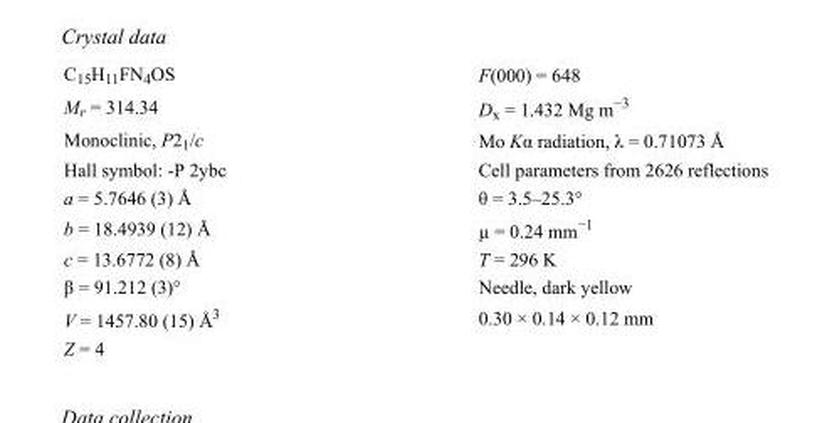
<table><tbody><tr><td>C<sub>15</sub>H<sub>11</sub>FN<sub>4</sub>OS</td><td>F(000) = 648</td></tr><tr><td>M<sub>r</sub> = 314.34</td><td>D<sub>x</sub> = 1.432 Mg m<sup>−3</sup></td></tr><tr><td>Monoclinic, P2<sub>1</sub>/c</td><td>Mo Kα radiation, λ = 0.71073 Å</td></tr><tr><td>Hall symbol: -P 2ybc</td><td>Cell parameters from 2626 reflections</td></tr><tr><td>a = 5.7646 (3) Å</td><td>θ = 3.5–25.3°</td></tr><tr><td>b = 18.4939 (12) Å</td><td>µ = 0.24 mm<sup>−1</sup></td></tr><tr><td>c = 13.6772 (8) Å</td><td>T = 296 K</td></tr><tr><td>β = 91.212 (3)°</td><td>Needle, dark yellow</td></tr><tr><td>V = 1457.80 (15) Å<sup>3</sup></td><td>0.30 × 0.14 × 0.12 mm</td></tr><tr><td>Z = 4</td><td></td></tr></tbody></table>